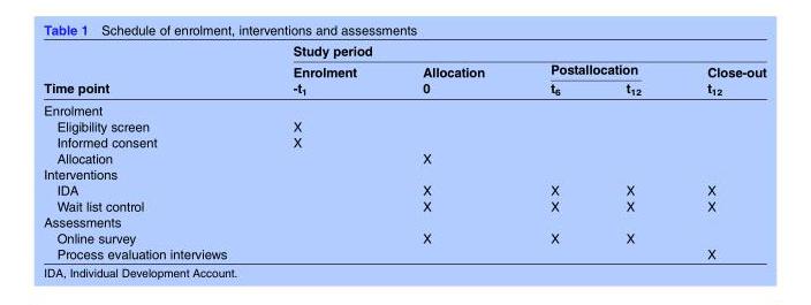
<table><thead><tr><td rowspan="3">Time point</td><td colspan="5">Study period</td></tr><tr><td rowspan="2">Enrolment -t1</td><td rowspan="2">Allocation 0</td><td colspan="2">Postallocation</td><td rowspan="2">Close-out t<sub>12</sub></td></tr><tr><td>t<sub>6</sub></td><td>t<sub>12</sub></td></tr></thead><tbody><tr><td colspan="6">Enrolment</td></tr><tr><td>Eligibility screen</td><td>X</td><td></td><td></td><td></td><td></td></tr><tr><td>Informed consent</td><td>X</td><td></td><td></td><td></td><td></td></tr><tr><td>Allocation</td><td></td><td>X</td><td></td><td></td><td></td></tr><tr><td colspan="6">Interventions</td></tr><tr><td>IDA</td><td></td><td>X</td><td>X</td><td>X</td><td>X</td></tr><tr><td>Wait list control</td><td></td><td>X</td><td>X</td><td>X</td><td>X</td></tr><tr><td colspan="6">Assessments</td></tr><tr><td>Online survey</td><td></td><td>X</td><td>X</td><td>X</td><td></td></tr><tr><td>Process evaluation interviews</td><td></td><td></td><td></td><td></td><td>X</td></tr></tbody></table>